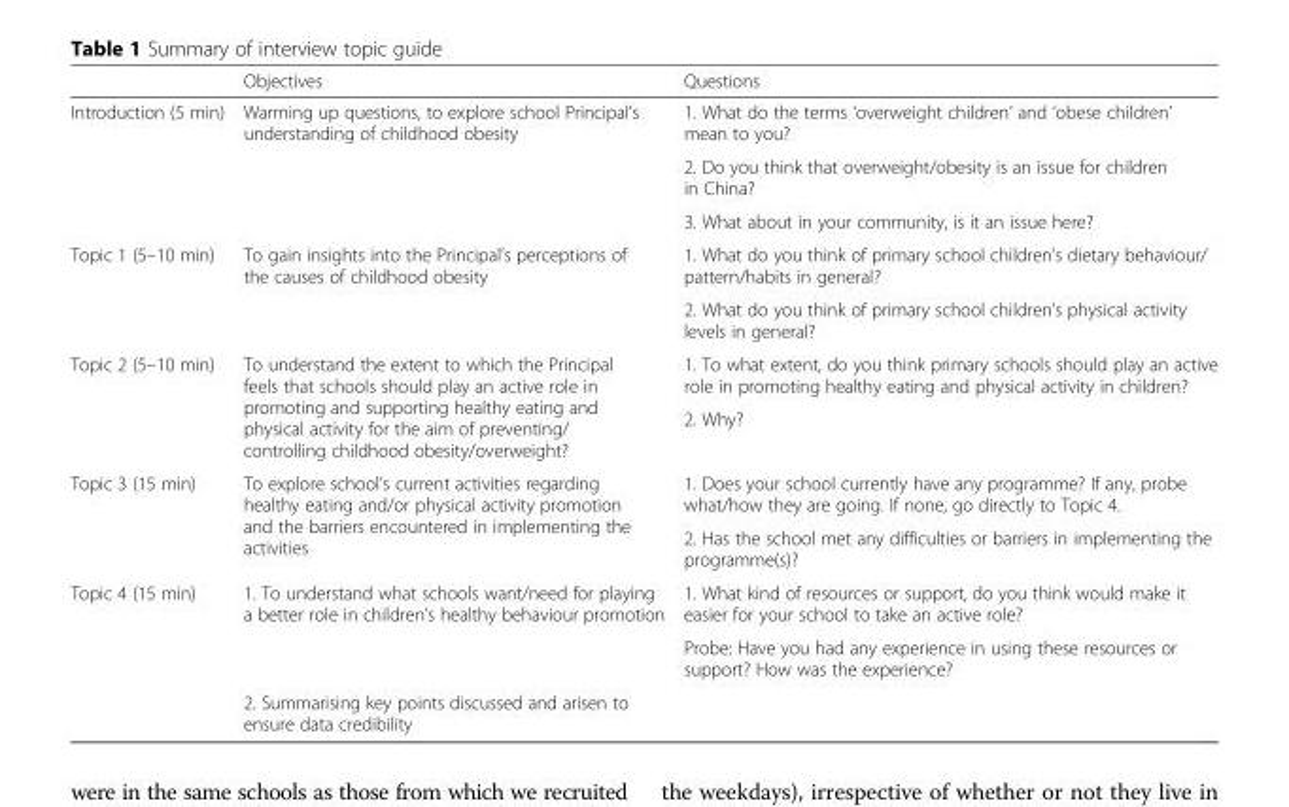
<table><thead><tr><td></td><td>Objectives</td><td>Questions</td></tr></thead><tbody><tr><td rowspan="3">Introduction (5 min)</td><td rowspan="3">Warming up questions, to explore school Principal’s understanding of childhood obesity</td><td>1. What do the terms ‘overweight children’ and ‘obese children’ mean to you?</td></tr><tr><td>2. Do you think that overweight/obesity is an issue for children in China?</td></tr><tr><td>3. What about in your community, is it an issue here?</td></tr><tr><td rowspan="2">Topic 1 (5–10 min)</td><td rowspan="2">To gain insights into the Principal’s perceptions of the causes of childhood obesity</td><td>1. What do you think of primary school children’s dietary behaviour/ pattern/habits in general?</td></tr><tr><td>2. What do you think of primary school children’s physical activity levels in general?</td></tr><tr><td rowspan="2">Topic 2 (5–10 min)</td><td rowspan="2">To understand the extent to which the Principal feels that schools should play an active role in promoting and supporting healthy eating and physical activity for the aim of preventing/ controlling childhood obesity/overweight?</td><td>1. To what extent, do you think primary schools should play an active role in promoting healthy eating and physical activity in children?</td></tr><tr><td>2. Why?</td></tr><tr><td rowspan="2">Topic 3 (15 min)</td><td rowspan="2">To explore school’s current activities regarding healthy eating and/or physical activity promotion and the barriers encountered in implementing the activities</td><td>1. Does your school currently have any programme? If any, probe what/how they are going. If none, go directly to Topic 4.</td></tr><tr><td>2. Has the school met any difficulties or barriers in implementing the programme(s)?</td></tr><tr><td rowspan="3">Topic 4 (15 min)</td><td rowspan="2">1. To understand what schools want/need for playing a better role in children’s healthy behaviour promotion</td><td>1. What kind of resources or support, do you think would make it easier for your school to take an active role?</td></tr><tr><td>Probe: Have you had any experience in using these resources or support? How was the experience?</td></tr><tr><td>2. Summarising key points discussed and arisen to ensure data credibility</td><td></td></tr></tbody></table>